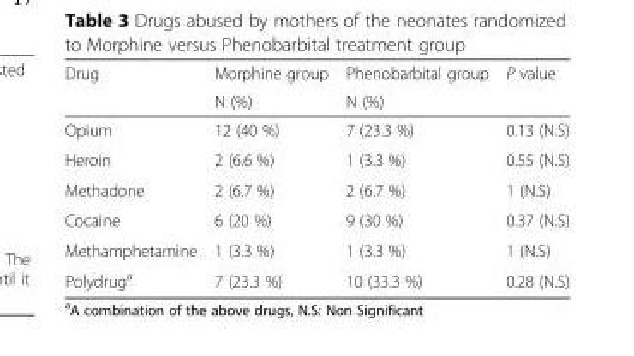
<table><thead><tr><td rowspan="2">Drug</td><td rowspan="2">Morphine group N (%)</td><td rowspan="2">Phenobarbital group N (%)</td><td rowspan="2">P value</td></tr><tr></tr></thead><tbody><tr><td>Opium</td><td>12 (40 %)</td><td>7 (23.3 %)</td><td>0.13 (N.S)</td></tr><tr><td>Heroin</td><td>2 (6.6 %)</td><td>1 (3.3 %)</td><td>0.55 (N.S)</td></tr><tr><td>Methadone</td><td>2 (6.7 %)</td><td>2 (6.7 %)</td><td>1 (N.S)</td></tr><tr><td>Cocaine</td><td>6 (20 %)</td><td>9 (30 %)</td><td>0.37 (N.S)</td></tr><tr><td>Methamphetamine</td><td>1 (3.3 %)</td><td>1 (3.3 %)</td><td>1 (N.S)</td></tr><tr><td>Polydrug<sup>a</sup></td><td>7 (23.3 %)</td><td>10 (33.3 %)</td><td>0.28 (N.S)</td></tr></tbody></table>